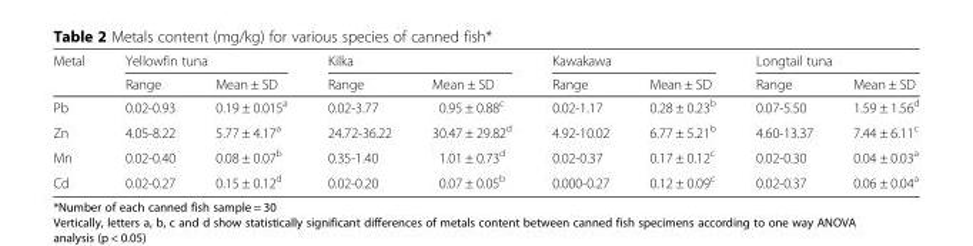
<table><thead><tr><td rowspan="2">Metal</td><td colspan="2">Yellowfin tuna</td><td colspan="2">Kilka</td><td colspan="2">Kawakawa</td><td colspan="2">Longtail tuna</td></tr><tr><td>Range</td><td>Mean ± SD</td><td>Range</td><td>Mean ± SD</td><td>Range</td><td>Mean ± SD</td><td>Range</td><td>Mean ± SD</td></tr></thead><tbody><tr><td>Pb</td><td>0.02-0.93</td><td>0.19 ± 0.015<sup>a</sup></td><td>0.02-3.77</td><td>0.95 ± 0.88<sup>c</sup></td><td>0.02-1.17</td><td>0.28 ± 0.23<sup>b</sup></td><td>0.07-5.50</td><td>1.59 ± 1.56<sup>d</sup></td></tr><tr><td>Zn</td><td>4.05-8.22</td><td>5.77 ± 4.17<sup>a</sup></td><td>24.72-36.22</td><td>30.47 ± 29.82<sup>d</sup></td><td>4.92-10.02</td><td>6.77 ± 5.21<sup>b</sup></td><td>4.60-13.37</td><td>7.44 ± 6.11<sup>c</sup></td></tr><tr><td>Mn</td><td>0.02-0.40</td><td>0.08 ± 0.07<sup>b</sup></td><td>0.35-1.40</td><td>1.01 ± 0.73<sup>d</sup></td><td>0.02-0.37</td><td>0.17 ± 0.12<sup>c</sup></td><td>0.02-0.30</td><td>0.04 ± 0.03<sup>a</sup></td></tr><tr><td>Cd</td><td>0.02-0.27</td><td>0.15 ± 0.12<sup>d</sup></td><td>0.02-0.20</td><td>0.07 ± 0.05<sup>b</sup></td><td>0.000-0.27</td><td>0.12 ± 0.09<sup>c</sup></td><td>0.02-0.37</td><td>0.06 ± 0.04<sup>a</sup></td></tr></tbody></table>